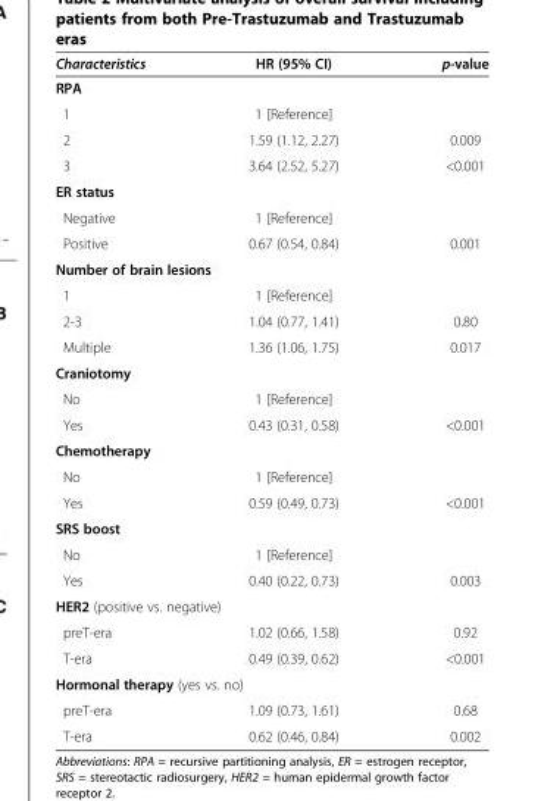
<table><thead><tr><td>Characteristics</td><td>HR (95% CI)</td><td>p-value</td></tr></thead><tbody><tr><td colspan="3">RPA</td></tr><tr><td>1</td><td>1 [Reference]</td><td></td></tr><tr><td>2</td><td>1.59 (1.12, 2.27)</td><td>0.009</td></tr><tr><td>3</td><td>3.64 (2.52, 5.27)</td><td>&lt;0.001</td></tr><tr><td colspan="3">ER status</td></tr><tr><td>Negative</td><td>1 [Reference]</td><td></td></tr><tr><td>Positive</td><td>0.67 (0.54, 0.84)</td><td>0.001</td></tr><tr><td colspan="3">Number of brain lesions</td></tr><tr><td>1</td><td>1 [Reference]</td><td></td></tr><tr><td>2-3</td><td>1.04 (0.77, 1.41)</td><td>0.80</td></tr><tr><td>Multiple</td><td>1.36 (1.06, 1.75)</td><td>0.017</td></tr><tr><td colspan="3">Craniotomy</td></tr><tr><td>No</td><td>1 [Reference]</td><td></td></tr><tr><td>Yes</td><td>0.43 (0.31, 0.58)</td><td>&lt;0.001</td></tr><tr><td colspan="3">Chemotherapy</td></tr><tr><td>No</td><td>1 [Reference]</td><td></td></tr><tr><td>Yes</td><td>0.59 (0.49, 0.73)</td><td>&lt;0.001</td></tr><tr><td colspan="3">SRS boost</td></tr><tr><td>No</td><td>1 [Reference]</td><td></td></tr><tr><td>Yes</td><td>0.40 (0.22, 0.73)</td><td>0.003</td></tr><tr><td colspan="3">HER2 (positive vs. negative)</td></tr><tr><td>preT-era</td><td>1.02 (0.66, 1.58)</td><td>0.92</td></tr><tr><td>T-era</td><td>0.49 (0.39, 0.62)</td><td>&lt;0.001</td></tr><tr><td colspan="3">Hormonal therapy (yes vs. no)</td></tr><tr><td>preT-era</td><td>1.09 (0.73, 1.61)</td><td>0.68</td></tr><tr><td>T-era</td><td>0.62 (0.46, 0.84)</td><td>0.002</td></tr></tbody></table>